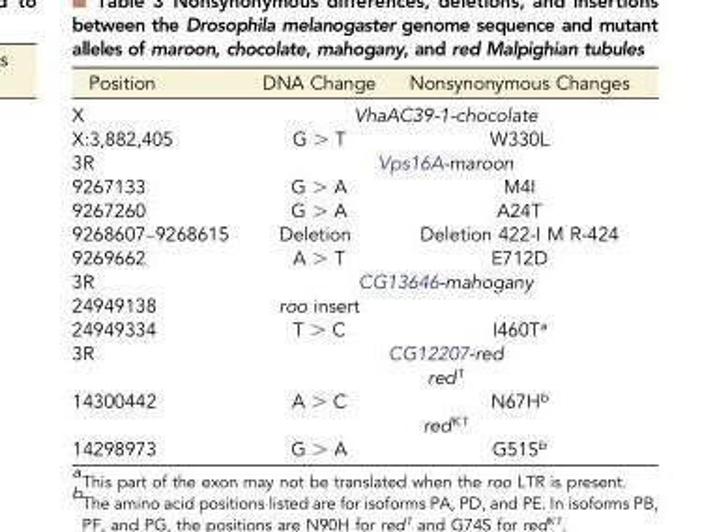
<table><thead><tr><td>Position</td><td>DNA Change</td><td>Nonsynonymous Changes</td></tr></thead><tbody><tr><td>X</td><td colspan="2">VhaAC39-1-chocolate</td></tr><tr><td>X:3,882,405</td><td>G &gt; T</td><td>W330L</td></tr><tr><td>3R</td><td colspan="2">Vps16A-maroon</td></tr><tr><td>9267133</td><td>G &gt; A</td><td>M4I</td></tr><tr><td>9267260</td><td>G &gt; A</td><td>A24T</td></tr><tr><td>9268607–9268615</td><td>Deletion</td><td>Deletion 422-I M R-424</td></tr><tr><td>9269662</td><td>A &gt; T</td><td>E712D</td></tr><tr><td>3R</td><td colspan="2">CG13646-mahogany</td></tr><tr><td>24949138</td><td>roo insert</td><td></td></tr><tr><td>24949334</td><td>T &gt; C</td><td>I460T<sup>a</sup></td></tr><tr><td rowspan="2">3R</td><td colspan="2">CG12207-red</td></tr><tr><td colspan="2">red<sup>1</sup></td></tr><tr><td rowspan="2">14300442</td><td>A &gt; C</td><td>N67H<sup>b</sup></td></tr><tr><td colspan="2">red<sup>K1</sup></td></tr><tr><td>14298973</td><td>G &gt; A</td><td>G51S<sup>b</sup></td></tr></tbody></table>